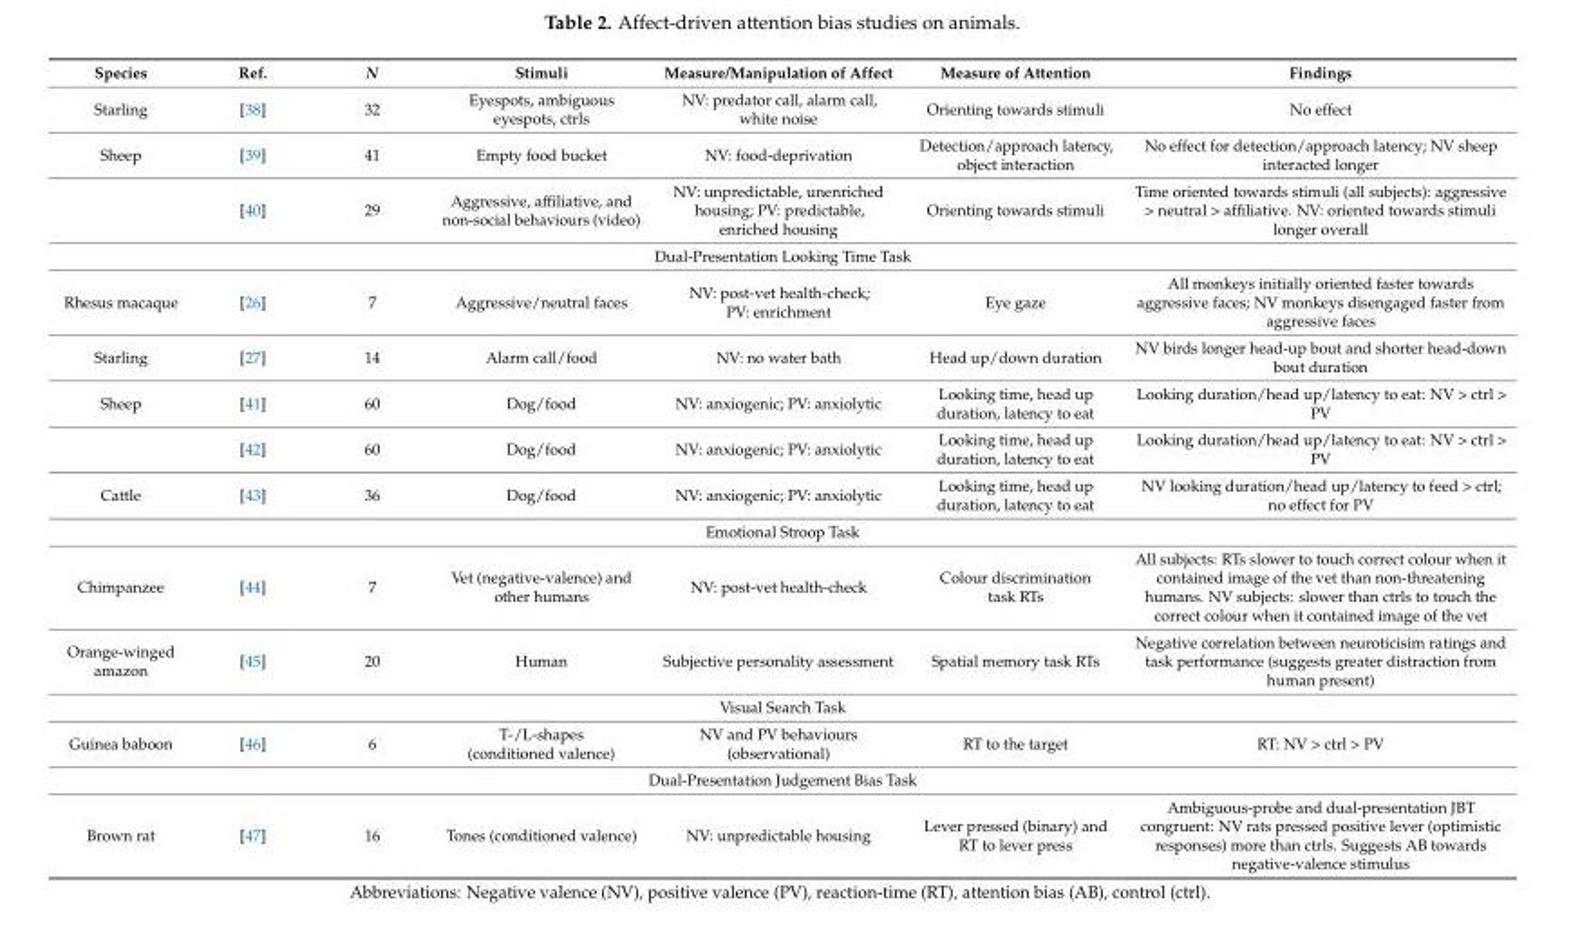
<table><thead><tr><td>Species</td><td>Ref.</td><td>N</td><td>Stimuli</td><td>Measure/Manipulation of Affect</td><td>Measure of Attention</td><td>Findings</td></tr></thead><tbody><tr><td>Starling</td><td>[38]</td><td>32</td><td>Eyespots, ambiguous eyespots, ctrls</td><td>NV: predator call, alarm call, white noise</td><td>Orienting towards stimuli</td><td>No effect</td></tr><tr><td rowspan="2">Sheep</td><td>[39]</td><td>41</td><td>Empty food bucket</td><td>NV: food-deprivation</td><td>Detection/approach latency, object interaction</td><td>No effect for detection/approach latency; NV sheep interacted longer</td></tr><tr><td>[40]</td><td>29</td><td>Aggressive, affiliative, and non-social behaviours (video)</td><td>NV: unpredictable, unenriched housing; PV: predictable, enriched housing</td><td>Orienting towards stimuli</td><td>Time oriented towards stimuli (all subjects): aggressive &gt; neutral &gt; affiliative. NV: oriented towards stimuli longer overall</td></tr><tr><td colspan="7">Dual-Presentation Looking Time Task</td></tr><tr><td>Rhesus macaque</td><td>[26]</td><td>7</td><td>Aggressive/neutral faces</td><td>NV: post-vet health-check; PV: enrichment</td><td>Eye gaze</td><td>All monkeys initially oriented faster towards aggressive faces; NV monkeys disengaged faster from aggressive faces</td></tr><tr><td>Starling</td><td>[27]</td><td>14</td><td>Alarm call/food</td><td>NV: no water bath</td><td>Head up/down duration</td><td>NV birds longer head-up bout and shorter head-down bout duration</td></tr><tr><td rowspan="2">Sheep</td><td>[41]</td><td>60</td><td>Dog/food</td><td>NV: anxiogenic; PV: anxiolytic</td><td>Looking time, head up duration, latency to eat</td><td>Looking duration/head up/latency to eat: NV &gt; ctrl &gt; PV</td></tr><tr><td>[42]</td><td>60</td><td>Dog/food</td><td>NV: anxiogenic; PV: anxiolytic</td><td>Looking time, head up duration, latency to eat</td><td>Looking duration/head up/latency to eat: NV &gt; ctrl &gt; PV</td></tr><tr><td>Cattle</td><td>[43]</td><td>36</td><td>Dog/food</td><td>NV: anxiogenic; PV: anxiolytic</td><td>Looking time, head up duration, latency to eat</td><td>NV looking duration/head up/latency to feed &gt; ctrl; no effect for PV</td></tr><tr><td colspan="7">Emotional Stroop Task</td></tr><tr><td>Chimpanzee</td><td>[44]</td><td>7</td><td>Vet (negative-valence) and other humans</td><td>NV: post-vet health-check</td><td>Colour discrimination task RTs</td><td>All subjects: RTs slower to touch correct colour when it contained image of the vet than non-threatening humans. NV subjects: slower than ctrls to touch the correct colour when it contained image of the vet</td></tr><tr><td>Orange-winged amazon</td><td>[45]</td><td>20</td><td>Human</td><td>Subjective personality assessment</td><td>Spatial memory task RTs</td><td>Negative correlation between neuroticisim ratings and task performance (suggests greater distraction from human present)</td></tr><tr><td colspan="7">Visual Search Task</td></tr><tr><td>Guinea baboon</td><td>[46]</td><td>6</td><td>T-/L-shapes (conditioned valence)</td><td>NV and PV behaviours (observational)</td><td>RT to the target</td><td>RT: NV &gt; ctrl &gt; PV</td></tr><tr><td colspan="7">Dual-Presentation Judgement Bias Task</td></tr><tr><td>Brown rat</td><td>[47]</td><td>16</td><td>Tones (conditioned valence)</td><td>NV: unpredictable housing</td><td>Lever pressed (binary) and RT to lever press</td><td>Ambiguous-probe and dual-presentation JBT congruent: NV rats pressed positive lever (optimistic responses) more than ctrls. Suggests AB towards negative-valence stimulus</td></tr></tbody></table>